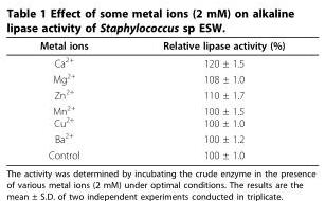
<table><thead><tr><td>Metal ions</td><td>Relative lipase activity (%)</td></tr></thead><tbody><tr><td>Ca<sup>2+</sup></td><td>120 ± 1.5</td></tr><tr><td>Mg<sup>2+</sup></td><td>108 ± 1.0</td></tr><tr><td>Zn<sup>2+</sup></td><td>110 ± 1.7</td></tr><tr><td>Mn<sup>2+</sup> Cu<sup>2+</sup></td><td>100 ± 1.5 100 ± 1.0</td></tr><tr><td>Ba<sup>2+</sup></td><td>100 ± 1.2</td></tr><tr><td>Control</td><td>100 ± 1.0</td></tr></tbody></table>